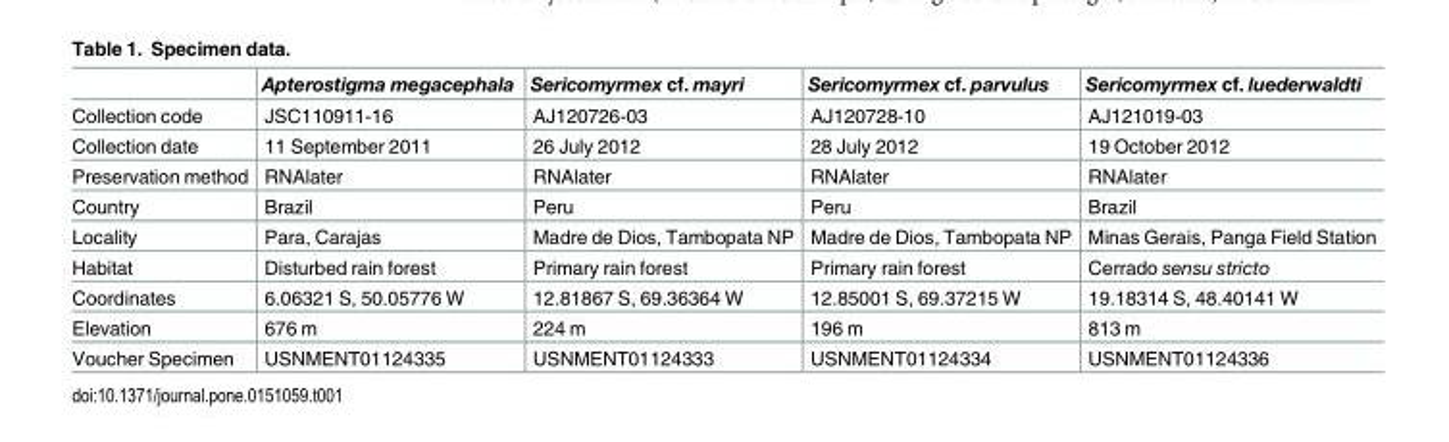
<table><thead><tr><td></td><td>Apterostigma megacephala</td><td>Sericomyrmex cf. mayri</td><td>Sericomyrmex cf. parvulus</td><td>Sericomyrmex cf. luederwaldti</td></tr></thead><tbody><tr><td>Collection code</td><td>JSC110911-16</td><td>AJ120726-03</td><td>AJ120728-10</td><td>AJ121019-03</td></tr><tr><td>Collection date</td><td>11 September 2011</td><td>26 July 2012</td><td>28 July 2012</td><td>19 October 2012</td></tr><tr><td>Preservation method</td><td>RNAlater</td><td>RNAlater</td><td>RNAlater</td><td>RNAlater</td></tr><tr><td>Country</td><td>Brazil</td><td>Peru</td><td>Peru</td><td>Brazil</td></tr><tr><td>Locality</td><td>Para, Carajas</td><td>Madre de Dios, Tambopata NP</td><td>Madre de Dios, Tambopata NP</td><td>Minas Gerais, Panga Field Station</td></tr><tr><td>Habitat</td><td>Disturbed rain forest</td><td>Primary rain forest</td><td>Primary rain forest</td><td>Cerrado sensu stricto</td></tr><tr><td>Coordinates</td><td>6.06321 S, 50.05776 W</td><td>12.81867 S, 69.36364 W</td><td>12.85001 S, 69.37215 W</td><td>19.18314 S, 48.40141 W</td></tr><tr><td>Elevation</td><td>676 m</td><td>224 m</td><td>196 m</td><td>813 m</td></tr><tr><td>Voucher Specimen</td><td>USNMENT01124335</td><td>USNMENT01124333</td><td>USNMENT01124334</td><td>USNMENT01124336</td></tr></tbody></table>